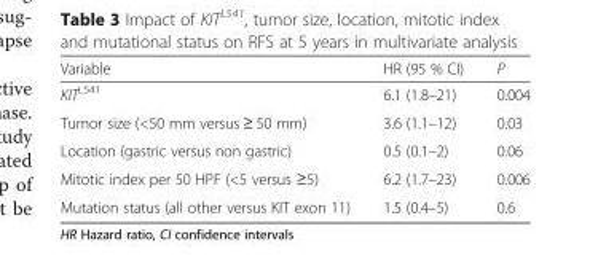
<table><thead><tr><td>Variable</td><td>HR (95 % CI)</td><td>P</td></tr></thead><tbody><tr><td>KIT<sup>L541</sup></td><td>6.1 (1.8–21)</td><td>0.004</td></tr><tr><td>Tumor size (&lt;50 mm versus ≥ 50 mm)</td><td>3.6 (1.1–12)</td><td>0.03</td></tr><tr><td>Location (gastric versus non gastric)</td><td>0.5 (0.1–2)</td><td>0.06</td></tr><tr><td>Mitotic index per 50 HPF (&lt;5 versus ≥5)</td><td>6.2 (1.7–23)</td><td>0.006</td></tr><tr><td>Mutation status (all other versus KIT exon 11)</td><td>1.5 (0.4–5)</td><td>0.6</td></tr></tbody></table>